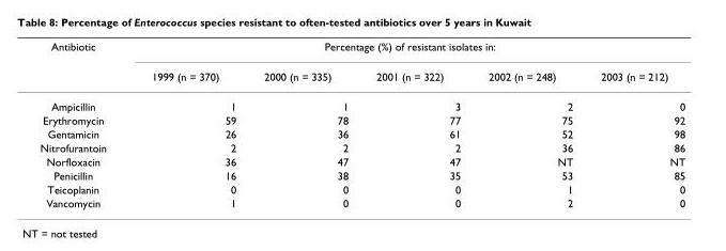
<table><thead><tr><td rowspan="2">Antibiotic</td><td colspan="5">Percentage (%) of resistant isolates in:</td></tr><tr><td>1999 (n = 370)</td><td>2000 (n = 335)</td><td>2001 (n = 322)</td><td>2002 (n = 248)</td><td>2003 (n = 212)</td></tr></thead><tbody><tr><td>Ampicillin</td><td>1</td><td>1</td><td>3</td><td>2</td><td>0</td></tr><tr><td>Erythromycin</td><td>59</td><td>78</td><td>77</td><td>75</td><td>92</td></tr><tr><td>Gentamicin</td><td>26</td><td>36</td><td>61</td><td>52</td><td>98</td></tr><tr><td>Nitrofurantoin</td><td>2</td><td>2</td><td>2</td><td>36</td><td>86</td></tr><tr><td>Norfloxacin</td><td>36</td><td>47</td><td>47</td><td>NT</td><td>NT</td></tr><tr><td>Penicillin</td><td>16</td><td>38</td><td>35</td><td>53</td><td>85</td></tr><tr><td>Teicoplanin</td><td>0</td><td>0</td><td>0</td><td>1</td><td>0</td></tr><tr><td>Vancomycin</td><td>1</td><td>0</td><td>0</td><td>2</td><td>0</td></tr></tbody></table>